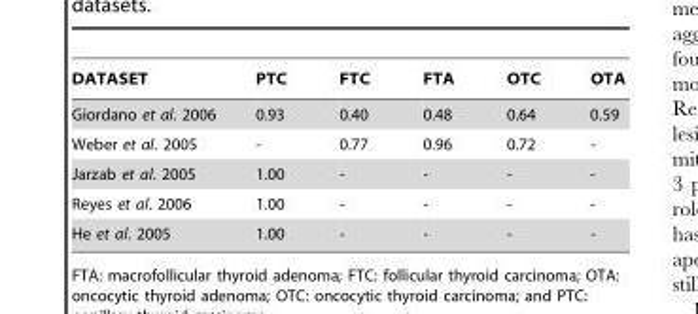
<table><thead><tr><td>DATASET</td><td>PTC</td><td>FTC</td><td>FTA</td><td>OTC</td><td>OTA</td></tr></thead><tbody><tr><td>Giordano et al. 2006</td><td>0.93</td><td>0.40</td><td>0.48</td><td>0.64</td><td>0.59</td></tr><tr><td>Weber et al. 2005</td><td>-</td><td>0.77</td><td>0.96</td><td>0.72</td><td>-</td></tr><tr><td>Jarzab et al. 2005</td><td>1.00</td><td>-</td><td>-</td><td>-</td><td>-</td></tr><tr><td>Reyes et al. 2006</td><td>1.00</td><td>-</td><td>-</td><td>-</td><td>-</td></tr><tr><td>He et al. 2005</td><td>1.00</td><td>-</td><td>-</td><td>-</td><td>-</td></tr></tbody></table>